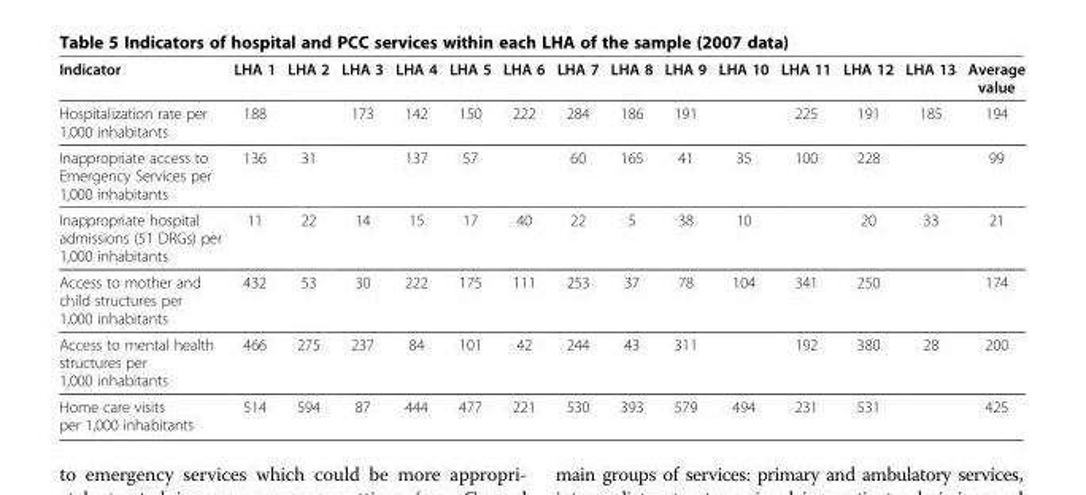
<table><thead><tr><td>Indicator</td><td>LHA 1</td><td>LHA 2</td><td>LHA 3</td><td>LHA 4</td><td>LHA 5</td><td>LHA 6</td><td>LHA 7</td><td>LHA 8</td><td>LHA 9</td><td>LHA 10</td><td>LHA 11</td><td>LHA 12</td><td>LHA 13</td><td>Average value</td></tr></thead><tbody><tr><td>Hospitalization rate per 1,000 inhabitants</td><td>188</td><td></td><td>173</td><td>142</td><td>150</td><td>222</td><td>284</td><td>186</td><td>191</td><td></td><td>225</td><td>191</td><td>185</td><td>194</td></tr><tr><td>Inappropriate access to Emergency Services per 1,000 inhabitants</td><td>136</td><td>31</td><td></td><td>137</td><td>57</td><td></td><td>60</td><td>165</td><td>41</td><td>35</td><td>100</td><td>228</td><td></td><td>99</td></tr><tr><td>Inappropriate hospital admissions (51 DRGs) per 1,000 inhabitants</td><td>11</td><td>22</td><td>14</td><td>15</td><td>17</td><td>40</td><td>22</td><td>5</td><td>38</td><td>10</td><td></td><td>20</td><td>33</td><td>21</td></tr><tr><td>Access to mother and child structures per 1,000 inhabitants</td><td>432</td><td>53</td><td>30</td><td>222</td><td>175</td><td>111</td><td>253</td><td>37</td><td>78</td><td>104</td><td>341</td><td>250</td><td></td><td>174</td></tr><tr><td>Access to mental health structures per 1,000 inhabitants</td><td>466</td><td>275</td><td>237</td><td>84</td><td>101</td><td>42</td><td>244</td><td>43</td><td>311</td><td></td><td>192</td><td>380</td><td>28</td><td>200</td></tr><tr><td>Home care visits per 1,000 inhabitants</td><td>514</td><td>594</td><td>87</td><td>444</td><td>477</td><td>221</td><td>530</td><td>393</td><td>579</td><td>494</td><td>231</td><td>531</td><td></td><td>425</td></tr></tbody></table>